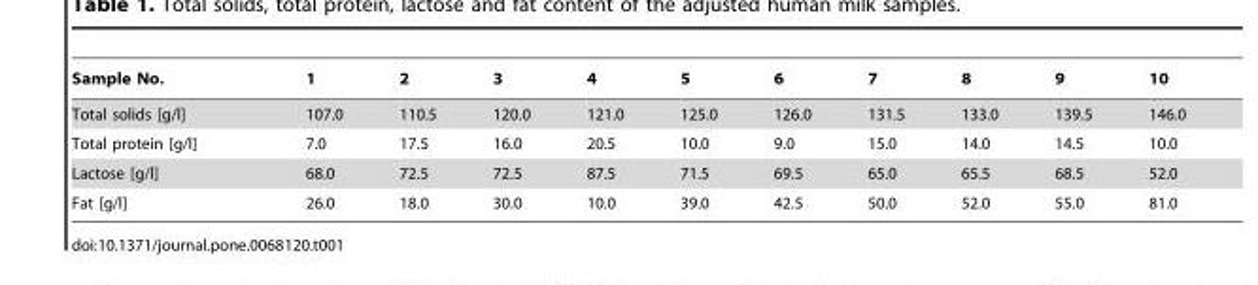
<table><thead><tr><td>Sample No.</td><td>1</td><td>2</td><td>3</td><td>4</td><td>5</td><td>6</td><td>7</td><td>8</td><td>9</td><td>10</td></tr></thead><tbody><tr><td>Total solids [g/l]</td><td>107.0</td><td>110.5</td><td>120.0</td><td>121.0</td><td>125.0</td><td>126.0</td><td>131.5</td><td>133.0</td><td>139.5</td><td>146.0</td></tr><tr><td>Total protein [g/l]</td><td>7.0</td><td>17.5</td><td>16.0</td><td>20.5</td><td>10.0</td><td>9.0</td><td>15.0</td><td>14.0</td><td>14.5</td><td>10.0</td></tr><tr><td>Lactose [g/l]</td><td>68.0</td><td>72.5</td><td>72.5</td><td>87.5</td><td>71.5</td><td>69.5</td><td>65.0</td><td>65.5</td><td>68.5</td><td>52.0</td></tr><tr><td>Fat [g/l]</td><td>26.0</td><td>18.0</td><td>30.0</td><td>10.0</td><td>39.0</td><td>42.5</td><td>50.0</td><td>52.0</td><td>55.0</td><td>81.0</td></tr></tbody></table>